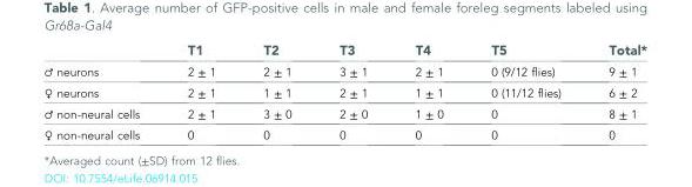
<table><thead><tr><td></td><td>T1</td><td>T2</td><td>T3</td><td>T4</td><td>T5</td><td>Total*</td></tr></thead><tbody><tr><td>♂ neurons</td><td>2 ± 1</td><td>2 ± 1</td><td>3 ± 1</td><td>2 ± 1</td><td>0 (9/12 flies)</td><td>9 ± 1</td></tr><tr><td>♀ neurons</td><td>2 ± 1</td><td>1 ± 1</td><td>2 ± 1</td><td>1 ± 1</td><td>0 (11/12 flies)</td><td>6 ± 2</td></tr><tr><td>♂ non-neural cells</td><td>2 ± 1</td><td>3 ± 0</td><td>2 ± 0</td><td>1 ± 0</td><td>0</td><td>8 ± 1</td></tr><tr><td>♀ non-neural cells</td><td>0</td><td>0</td><td>0</td><td>0</td><td>0</td><td>0</td></tr></tbody></table>